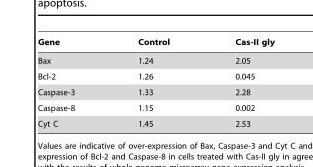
<table><thead><tr><td>Gene</td><td>Control</td><td>Cas-II gly</td></tr></thead><tbody><tr><td>Bax</td><td>1.24</td><td>2.05</td></tr><tr><td>Bcl-2</td><td>1.26</td><td>0.045</td></tr><tr><td>Caspase-3</td><td>1.33</td><td>2.28</td></tr><tr><td>Caspase-8</td><td>1.15</td><td>0.002</td></tr><tr><td>Cyt C</td><td>1.45</td><td>2.53</td></tr></tbody></table>